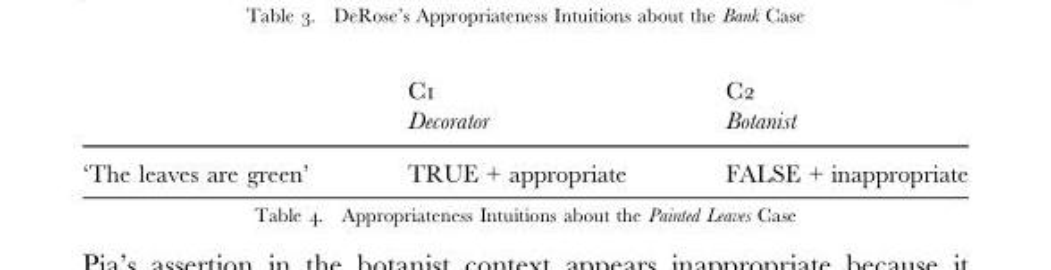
<table><thead><tr><td rowspan="2"></td><td rowspan="2">C1 Decorator</td><td rowspan="2">C2 Botanist</td></tr><tr></tr></thead><tbody><tr><td>‘The leaves are green’</td><td>TRUE + appropriate</td><td>FALSE + inappropriate</td></tr></tbody></table>